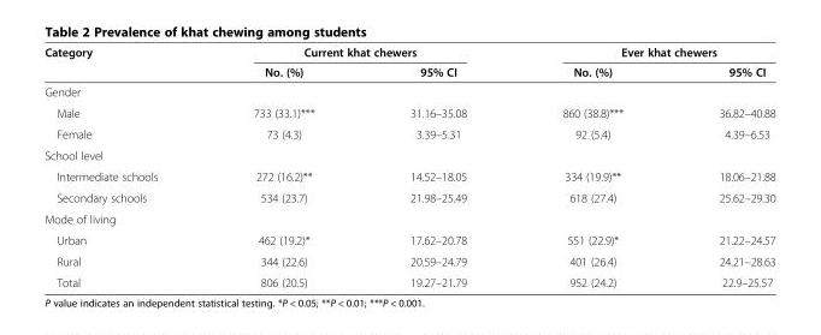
<table><thead><tr><td rowspan="2">Category</td><td colspan="2">Current khat chewers</td><td colspan="2">Ever khat chewers</td></tr><tr><td>No. (%)</td><td>95% CI</td><td>No. (%)</td><td>95% CI</td></tr></thead><tbody><tr><td colspan="5">Gender</td></tr><tr><td>Male</td><td>733 (33.1)***</td><td>31.16–35.08</td><td>860 (38.8)***</td><td>36.82–40.88</td></tr><tr><td>Female</td><td>73 (4.3)</td><td>3.39–5.31</td><td>92 (5.4)</td><td>4.39–6.53</td></tr><tr><td colspan="5">School level</td></tr><tr><td>Intermediate schools</td><td>272 (16.2)**</td><td>14.52–18.05</td><td>334 (19.9)**</td><td>18.06–21.88</td></tr><tr><td>Secondary schools</td><td>534 (23.7)</td><td>21.98–25.49</td><td>618 (27.4)</td><td>25.62–29.30</td></tr><tr><td colspan="5">Mode of living</td></tr><tr><td>Urban</td><td>462 (19.2)*</td><td>17.62–20.78</td><td>551 (22.9)*</td><td>21.22–24.57</td></tr><tr><td>Rural</td><td>344 (22.6)</td><td>20.59–24.79</td><td>401 (26.4)</td><td>24.21–28.63</td></tr><tr><td>Total</td><td>806 (20.5)</td><td>19.27–21.79</td><td>952 (24.2)</td><td>22.9–25.57</td></tr></tbody></table>